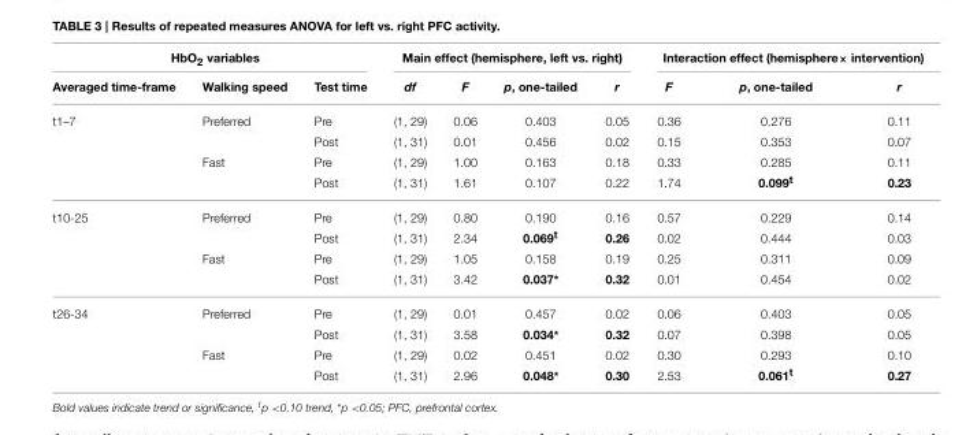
<table><thead><tr><td colspan="3">HbO<sub>2</sub> variables</td><td colspan="4">Main effect (hemisphere, left vs. right)</td><td colspan="3">Interaction effect (hemisphere× intervention)</td></tr><tr><td>Averaged time-frame</td><td>Walking speed</td><td>Test time</td><td>df</td><td>F</td><td>p, one-tailed</td><td>r</td><td>F</td><td>p, one-tailed</td><td>r</td></tr></thead><tbody><tr><td rowspan="4">t1–7</td><td>Preferred</td><td>Pre</td><td>(1, 29)</td><td>0.06</td><td>0.403</td><td>0.05</td><td>0.36</td><td>0.276</td><td>0.11</td></tr><tr><td></td><td>Post</td><td>(1, 31)</td><td>0.01</td><td>0.456</td><td>0.02</td><td>0.15</td><td>0.353</td><td>0.07</td></tr><tr><td>Fast</td><td>Pre</td><td>(1, 29)</td><td>1.00</td><td>0.163</td><td>0.18</td><td>0.33</td><td>0.285</td><td>0.11</td></tr><tr><td></td><td>Post</td><td>(1, 31)</td><td>1.61</td><td>0.107</td><td>0.22</td><td>1.74</td><td>0.099<sup>t</sup></td><td>0.23</td></tr><tr><td rowspan="4">t10-25</td><td>Preferred</td><td>Pre</td><td>(1, 29)</td><td>0.80</td><td>0.190</td><td>0.16</td><td>0.57</td><td>0.229</td><td>0.14</td></tr><tr><td></td><td>Post</td><td>(1, 31)</td><td>2.34</td><td>0.069<sup>t</sup></td><td>0.26</td><td>0.02</td><td>0.444</td><td>0.03</td></tr><tr><td>Fast</td><td>Pre</td><td>(1, 29)</td><td>1.05</td><td>0.158</td><td>0.19</td><td>0.25</td><td>0.311</td><td>0.09</td></tr><tr><td></td><td>Post</td><td>(1, 31)</td><td>3.42</td><td>0.037*</td><td>0.32</td><td>0.01</td><td>0.454</td><td>0.02</td></tr><tr><td rowspan="4">t26-34</td><td>Preferred</td><td>Pre</td><td>(1, 29)</td><td>0.01</td><td>0.457</td><td>0.02</td><td>0.06</td><td>0.403</td><td>0.05</td></tr><tr><td></td><td>Post</td><td>(1, 31)</td><td>3.58</td><td>0.034*</td><td>0.32</td><td>0.07</td><td>0.398</td><td>0.05</td></tr><tr><td>Fast</td><td>Pre</td><td>(1, 29)</td><td>0.02</td><td>0.451</td><td>0.02</td><td>0.30</td><td>0.293</td><td>0.10</td></tr><tr><td></td><td>Post</td><td>(1, 31)</td><td>2.96</td><td>0.048*</td><td>0.30</td><td>2.53</td><td>0.061<sup>t</sup></td><td>0.27</td></tr></tbody></table>